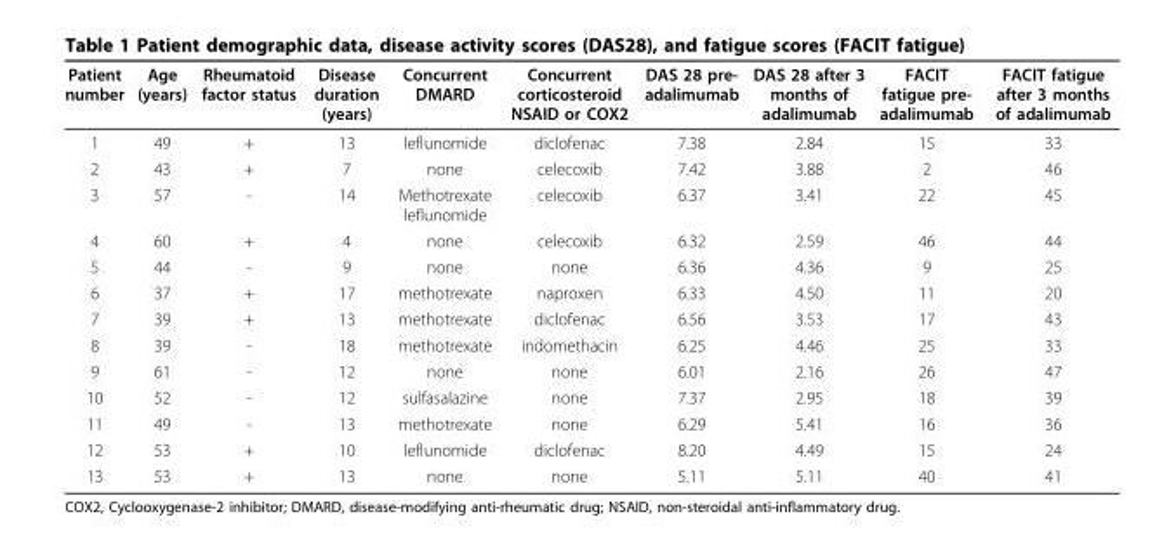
<table><thead><tr><td>Patient number</td><td>Age (years)</td><td>Rheumatoid factor status</td><td>Disease duration (years)</td><td>Concurrent DMARD</td><td>Concurrent corticosteroid NSAID or COX2</td><td>DAS 28 pre- adalimumab</td><td>DAS 28 after 3 months of adalimumab</td><td>FACIT fatigue pre- adalimumab</td><td>FACIT fatigue after 3 months of adalimumab</td></tr></thead><tbody><tr><td>1</td><td>49</td><td>+</td><td>13</td><td>leflunomide</td><td>diclofenac</td><td>7.38</td><td>2.84</td><td>15</td><td>33</td></tr><tr><td>2</td><td>43</td><td>+</td><td>7</td><td>none</td><td>celecoxib</td><td>7.42</td><td>3.88</td><td>2</td><td>46</td></tr><tr><td>3</td><td>57</td><td>-</td><td>14</td><td>Methotrexate leflunomide</td><td>celecoxib</td><td>6.37</td><td>3.41</td><td>22</td><td>45</td></tr><tr><td>4</td><td>60</td><td>+</td><td>4</td><td>none</td><td>celecoxib</td><td>6.32</td><td>2.59</td><td>46</td><td>44</td></tr><tr><td>5</td><td>44</td><td>-</td><td>9</td><td>none</td><td>none</td><td>6.36</td><td>4.36</td><td>9</td><td>25</td></tr><tr><td>6</td><td>37</td><td>+</td><td>17</td><td>methotrexate</td><td>naproxen</td><td>6.33</td><td>4.50</td><td>11</td><td>20</td></tr><tr><td>7</td><td>39</td><td>+</td><td>13</td><td>methotrexate</td><td>diclofenac</td><td>6.56</td><td>3.53</td><td>17</td><td>43</td></tr><tr><td>8</td><td>39</td><td>-</td><td>18</td><td>methotrexate</td><td>indomethacin</td><td>6.25</td><td>4.46</td><td>25</td><td>33</td></tr><tr><td>9</td><td>61</td><td>-</td><td>12</td><td>none</td><td>none</td><td>6.01</td><td>2.16</td><td>26</td><td>47</td></tr><tr><td>10</td><td>52</td><td>-</td><td>12</td><td>sulfasalazine</td><td>none</td><td>7.37</td><td>2.95</td><td>18</td><td>39</td></tr><tr><td>11</td><td>49</td><td>-</td><td>13</td><td>methotrexate</td><td>none</td><td>6.29</td><td>5.41</td><td>16</td><td>36</td></tr><tr><td>12</td><td>53</td><td>+</td><td>10</td><td>leflunomide</td><td>diclofenac</td><td>8.20</td><td>4.49</td><td>15</td><td>24</td></tr><tr><td>13</td><td>53</td><td>+</td><td>13</td><td>none</td><td>none</td><td>5.11</td><td>5.11</td><td>40</td><td>41</td></tr></tbody></table>